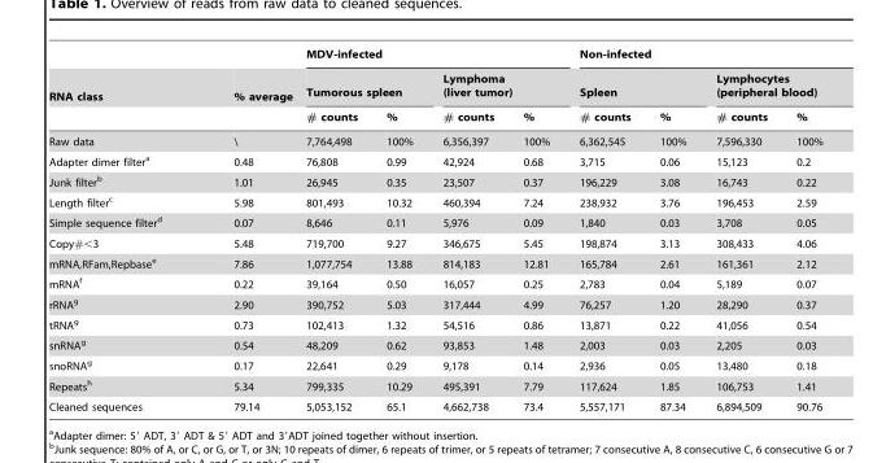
<table><thead><tr><td rowspan="3">RNA class</td><td rowspan="3">% average</td><td colspan="4">MDV-infected</td><td colspan="4">Non-infected</td></tr><tr><td colspan="2">Tumorous spleen</td><td colspan="2">Lymphoma (liver tumor)</td><td colspan="2">Spleen</td><td colspan="2">Lymphocytes (peripheral blood)</td></tr><tr><td># counts</td><td>%</td><td># counts</td><td>%</td><td># counts</td><td>%</td><td># counts</td><td>%</td></tr></thead><tbody><tr><td>Raw data</td><td>\</td><td>7,764,498</td><td>100%</td><td>6,356,397</td><td>100%</td><td>6,362,545</td><td>100%</td><td>7,596,330</td><td>100%</td></tr><tr><td>Adapter dimer filter<sup>a</sup></td><td>0.48</td><td>76,808</td><td>0.99</td><td>42,924</td><td>0.68</td><td>3,715</td><td>0.06</td><td>15,123</td><td>0.2</td></tr><tr><td>Junk filter<sup>b</sup></td><td>1.01</td><td>26,945</td><td>0.35</td><td>23,507</td><td>0.37</td><td>196,229</td><td>3.08</td><td>16,743</td><td>0.22</td></tr><tr><td>Length filter<sup>c</sup></td><td>5.98</td><td>801,493</td><td>10.32</td><td>460,394</td><td>7.24</td><td>238,932</td><td>3.76</td><td>196,453</td><td>2.59</td></tr><tr><td>Simple sequence filter<sup>d</sup></td><td>0.07</td><td>8,646</td><td>0.11</td><td>5,976</td><td>0.09</td><td>1,840</td><td>0.03</td><td>3,708</td><td>0.05</td></tr><tr><td>Copy#&lt;3</td><td>5.48</td><td>719,700</td><td>9.27</td><td>346,675</td><td>5.45</td><td>198,874</td><td>3.13</td><td>308,433</td><td>4.06</td></tr><tr><td>mRNA,RFam,Repbase<sup>e</sup></td><td>7.86</td><td>1,077,754</td><td>13.88</td><td>814,183</td><td>12.81</td><td>165,784</td><td>2.61</td><td>161,361</td><td>2.12</td></tr><tr><td>mRNA<sup>f</sup></td><td>0.22</td><td>39,164</td><td>0.50</td><td>16,057</td><td>0.25</td><td>2,783</td><td>0.04</td><td>5,189</td><td>0.07</td></tr><tr><td>rRNA<sup>g</sup></td><td>2.90</td><td>390,752</td><td>5.03</td><td>317,444</td><td>4.99</td><td>76,257</td><td>1.20</td><td>28,290</td><td>0.37</td></tr><tr><td>tRNA<sup>g</sup></td><td>0.73</td><td>102,413</td><td>1.32</td><td>54,516</td><td>0.86</td><td>13,871</td><td>0.22</td><td>41,056</td><td>0.54</td></tr><tr><td>snRNA<sup>g</sup></td><td>0.54</td><td>48,209</td><td>0.62</td><td>93,853</td><td>1.48</td><td>2,003</td><td>0.03</td><td>2,205</td><td>0.03</td></tr><tr><td>snoRNA<sup>g</sup></td><td>0.17</td><td>22,641</td><td>0.29</td><td>9,178</td><td>0.14</td><td>2,936</td><td>0.05</td><td>13,480</td><td>0.18</td></tr><tr><td>Repeats<sup>h</sup></td><td>5.34</td><td>799,335</td><td>10.29</td><td>495,391</td><td>7.79</td><td>117,624</td><td>1.85</td><td>106,753</td><td>1.41</td></tr><tr><td>Cleaned sequences</td><td>79.14</td><td>5,053,152</td><td>65.1</td><td>4,662,738</td><td>73.4</td><td>5,557,171</td><td>87.34</td><td>6,894,509</td><td>90.76</td></tr></tbody></table>